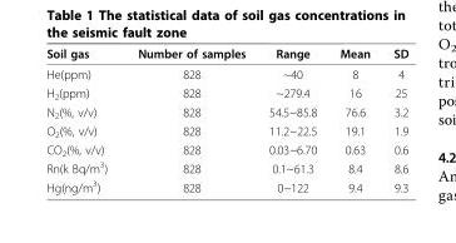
<table><thead><tr><td>Soil gas</td><td>Number of samples</td><td>Range</td><td>Mean</td><td>SD</td></tr></thead><tbody><tr><td>He(ppm)</td><td>828</td><td>~40</td><td>8</td><td>4</td></tr><tr><td>H<sub>2</sub>(ppm)</td><td>828</td><td>~279.4</td><td>16</td><td>25</td></tr><tr><td>N<sub>2</sub>(%, v/v)</td><td>828</td><td>54.5~85.8</td><td>76.6</td><td>3.2</td></tr><tr><td>O<sub>2</sub>(%, v/v)</td><td>828</td><td>11.2~22.5</td><td>19.1</td><td>1.9</td></tr><tr><td>CO<sub>2</sub>(%, v/v)</td><td>828</td><td>0.03~6.70</td><td>0.63</td><td>0.6</td></tr><tr><td>Rn(k Bq/m<sup>3</sup>)</td><td>828</td><td>0.1~61.3</td><td>8.4</td><td>8.6</td></tr><tr><td>Hg(ng/m<sup>3</sup>)</td><td>828</td><td>0~122</td><td>9.4</td><td>9.3</td></tr></tbody></table>